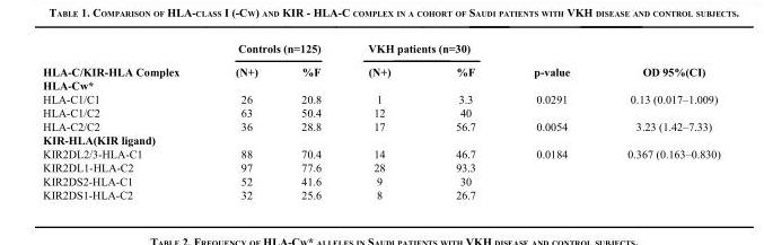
<table><thead><tr><td rowspan="2">HLA-C/KIR-HLA Complex</td><td colspan="2">Controls (n=125)</td><td colspan="2">VKH patients (n=30)</td><td rowspan="2">p-value</td><td rowspan="2">OD 95%(CI)</td></tr><tr><td>(N+)</td><td>%F</td><td>(N+)</td><td>%F</td></tr></thead><tbody><tr><td colspan="7">HLA-Cw*</td></tr><tr><td>HLA-C1/C1</td><td>26</td><td>20.8</td><td>1</td><td>3.3</td><td>0.0291</td><td>0.13 (0.017–1.009)</td></tr><tr><td>HLA-C1/C2</td><td>63</td><td>50.4</td><td>12</td><td>40</td><td></td><td></td></tr><tr><td>HLA-C2/C2</td><td>36</td><td>28.8</td><td>17</td><td>56.7</td><td>0.0054</td><td>3.23 (1.42–7.33)</td></tr><tr><td colspan="7">KIR-HLA(KIR ligand)</td></tr><tr><td>KIR2DL2/3-HLA-C1</td><td>88</td><td>70.4</td><td>14</td><td>46.7</td><td>0.0184</td><td>0.367 (0.163–0.830)</td></tr><tr><td>KIR2DL1-HLA-C2</td><td>97</td><td>77.6</td><td>28</td><td>93.3</td><td></td><td></td></tr><tr><td>KIR2DS2-HLA-C1</td><td>52</td><td>41.6</td><td>9</td><td>30</td><td></td><td></td></tr><tr><td>KIR2DS1-HLA-C2</td><td>32</td><td>25.6</td><td>8</td><td>26.7</td><td></td><td></td></tr></tbody></table>